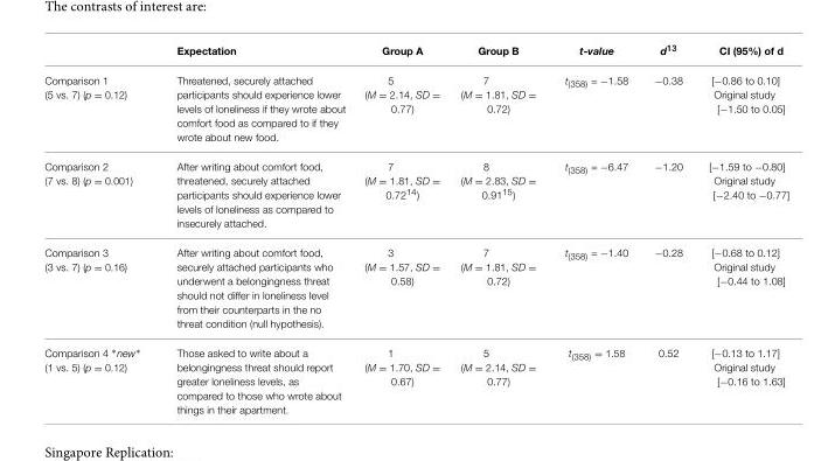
<table><thead><tr><td></td><td>Expectation</td><td>Group A</td><td>Group B</td><td>t-value</td><td>d<sup>13</sup></td><td>CI (95%) of d</td></tr></thead><tbody><tr><td>Comparison 1 (5 vs. 7) (p = 0.12)</td><td>Threatened, securely attached participants should experience lower levels of loneliness if they wrote about comfort food as compared to if they wrote about new food.</td><td>5 (M = 2.14, SD = 0.77)</td><td>7 (M = 1.81, SD = 0.72)</td><td>t<sub>(358)</sub> = −1.58</td><td>−0.38</td><td>[−0.86 to 0.10] Original study [−1.50 to 0.05]</td></tr><tr><td>Comparison 2 (7 vs. 8) (p = 0.001)</td><td>After writing about comfort food, threatened, securely attached participants should experience lower levels of loneliness as compared to insecurely attached.</td><td>7 (M = 1.81, SD = 0.72<sup>14</sup>)</td><td>8 (M = 2.83, SD = 0.91<sup>15</sup>)</td><td>t<sub>(358)</sub> = −6.47</td><td>−1.20</td><td>[−1.59 to −0.80] Original study [−2.40 to −0.77]</td></tr><tr><td>Comparison 3 (3 vs. 7) (p = 0.16)</td><td>After writing about comfort food, securely attached participants who underwent a belongingness threat should not differ in loneliness level from their counterparts in the no threat condition (null hypothesis).</td><td>3 (M = 1.57, SD = 0.58)</td><td>7 (M = 1.81, SD = 0.72)</td><td>t<sub>(358)</sub> = −1.40</td><td>−0.28</td><td>[−0.68 to 0.12] Original study [−0.44 to 1.08]</td></tr><tr><td>Comparison 4 ∗new∗ (1 vs. 5) (p = 0.12)</td><td>Those asked to write about a belongingness threat should report greater loneliness levels, as compared to those who wrote about things in their apartment.</td><td>1 (M = 1.70, SD = 0.67)</td><td>5 (M = 2.14, SD = 0.77)</td><td>t<sub>(358)</sub> = 1.58</td><td>0.52</td><td>[−0.13 to 1.17] Original study [−0.16 to 1.63]</td></tr></tbody></table>